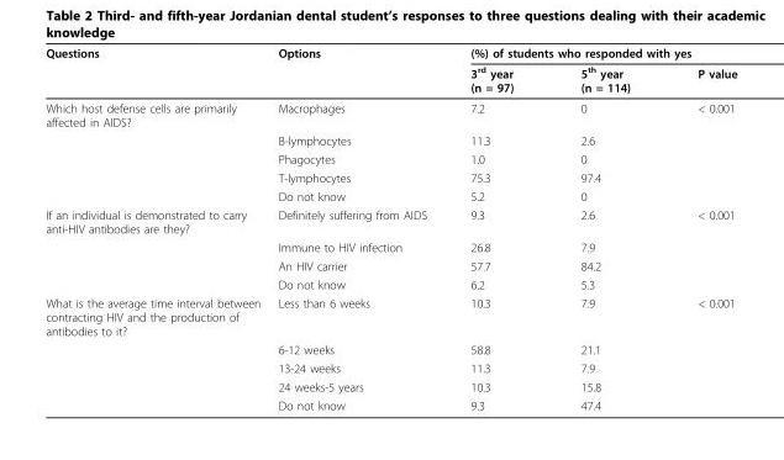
<table><thead><tr><td rowspan="2">Questions</td><td rowspan="2">Options</td><td colspan="3">(%) of students who responded with yes</td></tr><tr><td>3<sup>rd</sup> year (n = 97)</td><td>5<sup>th</sup> year (n = 114)</td><td>P value</td></tr></thead><tbody><tr><td rowspan="5">Which host defense cells are primarily affected in AIDS?</td><td>Macrophages</td><td>7.2</td><td>0</td><td>&lt; 0.001</td></tr><tr><td>B-lymphocytes</td><td>11.3</td><td>2.6</td><td></td></tr><tr><td>Phagocytes</td><td>1.0</td><td>0</td><td></td></tr><tr><td>T-lymphocytes</td><td>75.3</td><td>97.4</td><td></td></tr><tr><td>Do not know</td><td>5.2</td><td>0</td><td></td></tr><tr><td rowspan="4">If an individual is demonstrated to carry anti-HIV antibodies are they?</td><td>Definitely suffering from AIDS</td><td>9.3</td><td>2.6</td><td>&lt; 0.001</td></tr><tr><td>Immune to HIV infection</td><td>26.8</td><td>7.9</td><td></td></tr><tr><td>An HIV carrier</td><td>57.7</td><td>84.2</td><td></td></tr><tr><td>Do not know</td><td>6.2</td><td>5.3</td><td></td></tr><tr><td rowspan="5">What is the average time interval between contracting HIV and the production of antibodies to it?</td><td>Less than 6 weeks</td><td>10.3</td><td>7.9</td><td>&lt; 0.001</td></tr><tr><td>6-12 weeks</td><td>58.8</td><td>21.1</td><td></td></tr><tr><td>13-24 weeks</td><td>11.3</td><td>7.9</td><td></td></tr><tr><td>24 weeks-5 years</td><td>10.3</td><td>15.8</td><td></td></tr><tr><td>Do not know</td><td>9.3</td><td>47.4</td><td></td></tr></tbody></table>